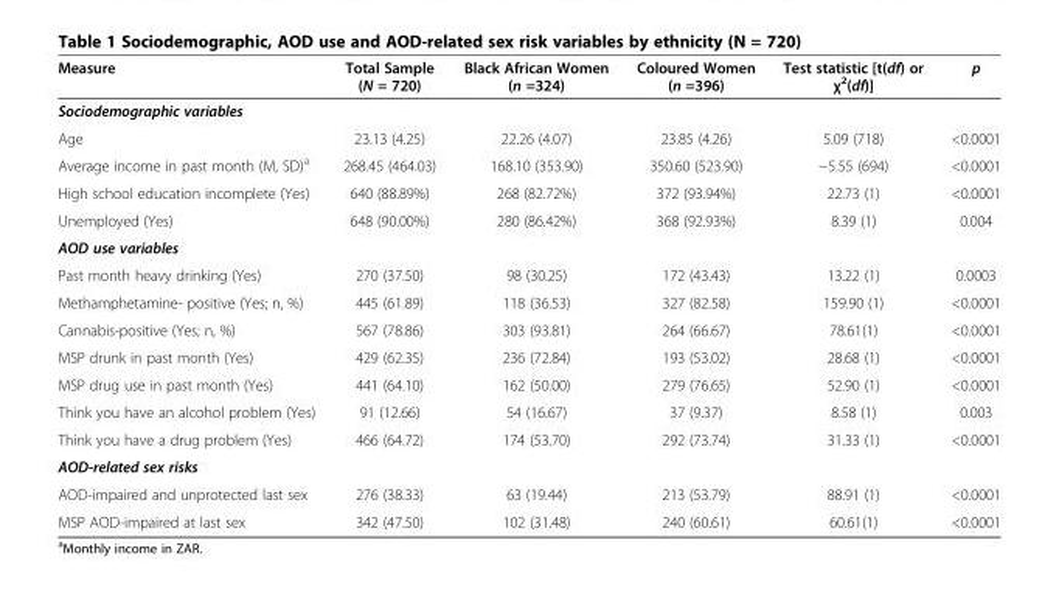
<table><thead><tr><td>Measure</td><td>Total Sample (N = 720)</td><td>Black African Women (n =324)</td><td>Coloured Women (n =396)</td><td>Test statistic [t(df) or χ<sup>2</sup>(df)]</td><td>p</td></tr></thead><tbody><tr><td colspan="6">Sociodemographic variables</td></tr><tr><td>Age</td><td>23.13 (4.25)</td><td>22.26 (4.07)</td><td>23.85 (4.26)</td><td>5.09 (718)</td><td>&lt;0.0001</td></tr><tr><td>Average income in past month (M, SD)<sup>a</sup></td><td>268.45 (464.03)</td><td>168.10 (353.90)</td><td>350.60 (523.90)</td><td>−5.55 (694)</td><td>&lt;0.0001</td></tr><tr><td>High school education incomplete (Yes)</td><td>640 (88.89%)</td><td>268 (82.72%)</td><td>372 (93.94%)</td><td>22.73 (1)</td><td>&lt;0.0001</td></tr><tr><td>Unemployed (Yes)</td><td>648 (90.00%)</td><td>280 (86.42%)</td><td>368 (92.93%)</td><td>8.39 (1)</td><td>0.004</td></tr><tr><td colspan="6">AOD use variables</td></tr><tr><td>Past month heavy drinking (Yes)</td><td>270 (37.50)</td><td>98 (30.25)</td><td>172 (43.43)</td><td>13.22 (1)</td><td>0.0003</td></tr><tr><td>Methamphetamine- positive (Yes; n, %)</td><td>445 (61.89)</td><td>118 (36.53)</td><td>327 (82.58)</td><td>159.90 (1)</td><td>&lt;0.0001</td></tr><tr><td>Cannabis-positive (Yes; n, %)</td><td>567 (78.86)</td><td>303 (93.81)</td><td>264 (66.67)</td><td>78.61(1)</td><td>&lt;0.0001</td></tr><tr><td>MSP drunk in past month (Yes)</td><td>429 (62.35)</td><td>236 (72.84)</td><td>193 (53.02)</td><td>28.68 (1)</td><td>&lt;0.0001</td></tr><tr><td>MSP drug use in past month (Yes)</td><td>441 (64.10)</td><td>162 (50.00)</td><td>279 (76.65)</td><td>52.90 (1)</td><td>&lt;0.0001</td></tr><tr><td>Think you have an alcohol problem (Yes)</td><td>91 (12.66)</td><td>54 (16.67)</td><td>37 (9.37)</td><td>8.58 (1)</td><td>0.003</td></tr><tr><td>Think you have a drug problem (Yes)</td><td>466 (64.72)</td><td>174 (53.70)</td><td>292 (73.74)</td><td>31.33 (1)</td><td>&lt;0.0001</td></tr><tr><td colspan="6">AOD-related sex risks</td></tr><tr><td>AOD-impaired and unprotected last sex</td><td>276 (38.33)</td><td>63 (19.44)</td><td>213 (53.79)</td><td>88.91 (1)</td><td>&lt;0.0001</td></tr><tr><td>MSP AOD-impaired at last sex</td><td>342 (47.50)</td><td>102 (31.48)</td><td>240 (60.61)</td><td>60.61(1)</td><td>&lt;0.0001</td></tr></tbody></table>